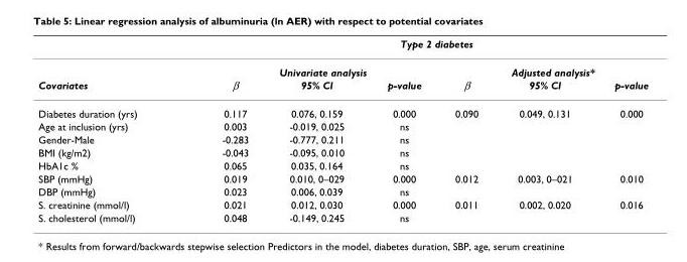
<table><thead><tr><td rowspan="3">Covariates</td><td colspan="6">Type 2 diabetes</td></tr><tr><td colspan="3">Univariate analysis</td><td colspan="3">Adjusted analysis*</td></tr><tr><td>β</td><td>95% CI</td><td>p-value</td><td>β</td><td>95% CI</td><td>p-value</td></tr></thead><tbody><tr><td>Diabetes duration (yrs)</td><td>0.117</td><td>0.076, 0.159</td><td>0.000</td><td>0.090</td><td>0.049, 0.131</td><td>0.000</td></tr><tr><td>Age at inclusion (yrs)</td><td>0.003</td><td>-0.019, 0.025</td><td>ns</td><td></td><td></td><td></td></tr><tr><td>Gender-Male</td><td>-0.283</td><td>-0.777, 0.211</td><td>ns</td><td></td><td></td><td></td></tr><tr><td>BMI (kg/m2)</td><td>-0.043</td><td>-0.095, 0.010</td><td>ns</td><td></td><td></td><td></td></tr><tr><td>HbA1c %</td><td>0.065</td><td>0.035, 0.164</td><td>ns</td><td></td><td></td><td></td></tr><tr><td>SBP (mmHg)</td><td>0.019</td><td>0.010, 0–029</td><td>0.000</td><td>0.012</td><td>0.003, 0–021</td><td>0.010</td></tr><tr><td>DBP (mmHg)</td><td>0.023</td><td>0.006, 0.039</td><td>ns</td><td></td><td></td><td></td></tr><tr><td>S. creatinine (mmol/l)</td><td>0.021</td><td>0.012, 0.030</td><td>0.000</td><td>0.011</td><td>0.002, 0.020</td><td>0.016</td></tr><tr><td>S. cholesterol (mmol/l)</td><td>0.048</td><td>-0.149, 0.245</td><td>ns</td><td></td><td></td><td></td></tr></tbody></table>